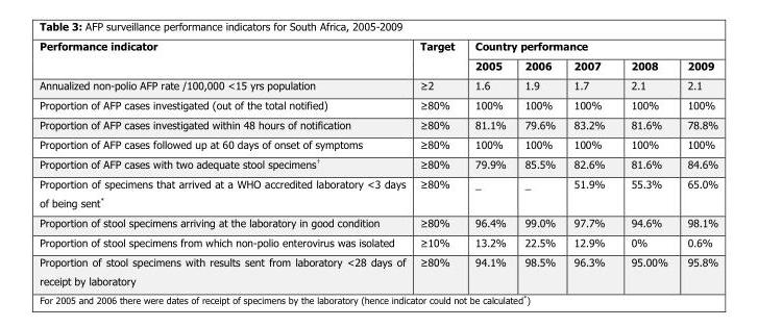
<table><thead><tr><td rowspan="2">Performance indicator</td><td rowspan="2">Target</td><td colspan="5">Country performance</td></tr><tr><td>2005</td><td>2006</td><td>2007</td><td>2008</td><td>2009</td></tr></thead><tbody><tr><td>Annualized non-polio AFP rate /100,000 &lt;15 yrs population</td><td>≥2</td><td>1.6</td><td>1.9</td><td>1.7</td><td>2.1</td><td>2.1</td></tr><tr><td>Proportion of AFP cases investigated (out of the total notified)</td><td>≥80%</td><td>100%</td><td>100%</td><td>100%</td><td>100%</td><td>100%</td></tr><tr><td>Proportion of AFP cases investigated within 48 hours of notification</td><td>≥80%</td><td>81.1%</td><td>79.6%</td><td>83.2%</td><td>81.6%</td><td>78.8%</td></tr><tr><td>Proportion of AFP cases followed up at 60 days of onset of symptoms</td><td>≥80%</td><td>100%</td><td>100%</td><td>100%</td><td>100%</td><td>100%</td></tr><tr><td>Proportion of AFP cases with two adequate stool specimens<sup>†</sup></td><td>≥80%</td><td>79.9%</td><td>85.5%</td><td>82.6%</td><td>81.6%</td><td>84.6%</td></tr><tr><td>Proportion of specimens that arrived at a WHO accredited laboratory &lt;3 days of being sent*</td><td>≥80%</td><td>–</td><td>–</td><td>51.9%</td><td>55.3%</td><td>65.0%</td></tr><tr><td>Proportion of stool specimens arriving at the laboratory in good condition</td><td>≥80%</td><td>96.4%</td><td>99.0%</td><td>97.7%</td><td>94.6%</td><td>98.1%</td></tr><tr><td>Proportion of stool specimens from which non-polio enterovirus was isolated</td><td>≥10%</td><td>13.2%</td><td>22.5%</td><td>12.9%</td><td>0%</td><td>0.6%</td></tr><tr><td>Proportion of stool specimens with results sent from laboratory &lt;28 days of receipt by laboratory</td><td>≥80%</td><td>94.1%</td><td>98.5%</td><td>96.3%</td><td>95.00%</td><td>95.8%</td></tr></tbody></table>